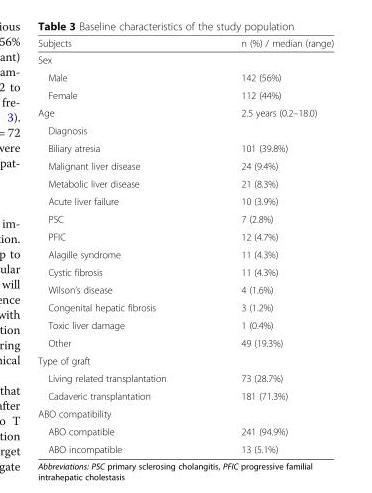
<table><thead><tr><td>Subjects</td><td>n (%) / median (range)</td></tr></thead><tbody><tr><td colspan="2">Sex</td></tr><tr><td>Male</td><td>142 (56%)</td></tr><tr><td>Female</td><td>112 (44%)</td></tr><tr><td>Age</td><td>2.5 years (0.2–18.0)</td></tr><tr><td colspan="2">Diagnosis</td></tr><tr><td>Biliary atresia</td><td>101 (39.8%)</td></tr><tr><td>Malignant liver disease</td><td>24 (9.4%)</td></tr><tr><td>Metabolic liver disease</td><td>21 (8.3%)</td></tr><tr><td>Acute liver failure</td><td>10 (3.9%)</td></tr><tr><td>PSC</td><td>7 (2.8%)</td></tr><tr><td>PFIC</td><td>12 (4.7%)</td></tr><tr><td>Alagille syndrome</td><td>11 (4.3%)</td></tr><tr><td>Cystic fibrosis</td><td>11 (4.3%)</td></tr><tr><td>Wilson’s disease</td><td>4 (1.6%)</td></tr><tr><td>Congenital hepatic fibrosis</td><td>3 (1.2%)</td></tr><tr><td>Toxic liver damage</td><td>1 (0.4%)</td></tr><tr><td>Other</td><td>49 (19.3%)</td></tr><tr><td colspan="2">Type of graft</td></tr><tr><td>Living related transplantation</td><td>73 (28.7%)</td></tr><tr><td>Cadaveric transplantation</td><td>181 (71.3%)</td></tr><tr><td colspan="2">ABO compatibility</td></tr><tr><td>ABO compatible</td><td>241 (94.9%)</td></tr><tr><td>ABO incompatible</td><td>13 (5.1%)</td></tr></tbody></table>